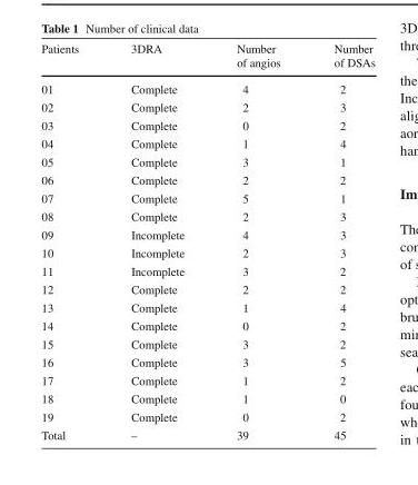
<table><thead><tr><td>Patients</td><td>3DRA</td><td>Number of angios</td><td>Number of DSAs</td></tr></thead><tbody><tr><td>01</td><td>Complete</td><td>4</td><td>2</td></tr><tr><td>02</td><td>Complete</td><td>2</td><td>3</td></tr><tr><td>03</td><td>Complete</td><td>0</td><td>2</td></tr><tr><td>04</td><td>Complete</td><td>1</td><td>4</td></tr><tr><td>05</td><td>Complete</td><td>3</td><td>1</td></tr><tr><td>06</td><td>Complete</td><td>2</td><td>2</td></tr><tr><td>07</td><td>Complete</td><td>5</td><td>1</td></tr><tr><td>08</td><td>Complete</td><td>2</td><td>3</td></tr><tr><td>09</td><td>Incomplete</td><td>4</td><td>3</td></tr><tr><td>10</td><td>Incomplete</td><td>2</td><td>3</td></tr><tr><td>11</td><td>Incomplete</td><td>3</td><td>2</td></tr><tr><td>12</td><td>Complete</td><td>2</td><td>2</td></tr><tr><td>13</td><td>Complete</td><td>1</td><td>4</td></tr><tr><td>14</td><td>Complete</td><td>0</td><td>2</td></tr><tr><td>15</td><td>Complete</td><td>3</td><td>2</td></tr><tr><td>16</td><td>Complete</td><td>3</td><td>5</td></tr><tr><td>17</td><td>Complete</td><td>1</td><td>2</td></tr><tr><td>18</td><td>Complete</td><td>1</td><td>0</td></tr><tr><td>19</td><td>Complete</td><td>0</td><td>2</td></tr><tr><td>Total</td><td>–</td><td>39</td><td>45</td></tr></tbody></table>